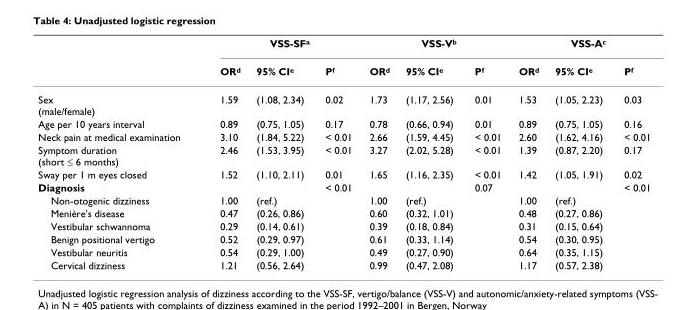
<table><thead><tr><td rowspan="2"></td><td colspan="3">VSS-SF<sup>a</sup></td><td colspan="3">VSS-V<sup>b</sup></td><td colspan="3">VSS-A<sup>c</sup></td></tr><tr><td>OR<sup>d</sup></td><td>95% CI<sup>e</sup></td><td>P<sup>f</sup></td><td>OR<sup>d</sup></td><td>95% CI<sup>e</sup></td><td>P<sup>f</sup></td><td>OR<sup>d</sup></td><td>95% CI<sup>e</sup></td><td>P<sup>f</sup></td></tr></thead><tbody><tr><td>Sex (male/female)</td><td>1.59</td><td>(1.08, 2.34)</td><td>0.02</td><td>1.73</td><td>(1.17, 2.56)</td><td>0.01</td><td>1.53</td><td>(1.05, 2.23)</td><td>0.03</td></tr><tr><td>Age per 10 years interval</td><td>0.89</td><td>(0.75, 1.05)</td><td>0.17</td><td>0.78</td><td>(0.66, 0.94)</td><td>0.01</td><td>0.89</td><td>(0.75, 1.05)</td><td>0.16</td></tr><tr><td>Neck pain at medical examination</td><td>3.10</td><td>(1.84, 5.22)</td><td>&lt; 0.01</td><td>2.66</td><td>(1.59, 4.45)</td><td>&lt; 0.01</td><td>2.60</td><td>(1.62, 4.16)</td><td>&lt; 0.01</td></tr><tr><td>Symptom duration (short ≤ 6 months)</td><td>2.46</td><td>(1.53, 3.95)</td><td>&lt; 0.01</td><td>3.27</td><td>(2.02, 5.28)</td><td>&lt; 0.01</td><td>1.39</td><td>(0.87, 2.20)</td><td>0.17</td></tr><tr><td>Sway per 1 m eyes closed</td><td>1.52</td><td>(1.10, 2.11)</td><td>0.01</td><td>1.65</td><td>(1.16, 2.35)</td><td>&lt; 0.01</td><td>1.42</td><td>(1.05, 1.91)</td><td>0.02</td></tr><tr><td>Diagnosis</td><td></td><td></td><td>&lt; 0.01</td><td></td><td></td><td>0.07</td><td></td><td></td><td>&lt; 0.01</td></tr><tr><td>Non-otogenic dizziness</td><td>1.00</td><td>(ref.)</td><td></td><td>1.00</td><td>(ref.)</td><td></td><td>1.00</td><td>(ref.)</td><td></td></tr><tr><td>Menière&#x27;s disease</td><td>0.47</td><td>(0.26, 0.86)</td><td></td><td>0.60</td><td>(0.32, 1.01)</td><td></td><td>0.48</td><td>(0.27, 0.86)</td><td></td></tr><tr><td>Vestibular schwannoma</td><td>0.29</td><td>(0.14, 0.61)</td><td></td><td>0.39</td><td>(0.18, 0.84)</td><td></td><td>0.31</td><td>(0.15, 0.64)</td><td></td></tr><tr><td>Benign positional vertigo</td><td>0.52</td><td>(0.29, 0.97)</td><td></td><td>0.61</td><td>(0.33, 1.14)</td><td></td><td>0.54</td><td>(0.30, 0.95)</td><td></td></tr><tr><td>Vestibular neuritis</td><td>0.54</td><td>(0.29, 1.00)</td><td></td><td>0.49</td><td>(0.27, 0.90)</td><td></td><td>0.64</td><td>(0.35, 1.15)</td><td></td></tr><tr><td>Cervical dizziness</td><td>1.21</td><td>(0.56, 2.64)</td><td></td><td>0.99</td><td>(0.47, 2.08)</td><td></td><td>1.17</td><td>(0.57, 2.38)</td><td></td></tr></tbody></table>